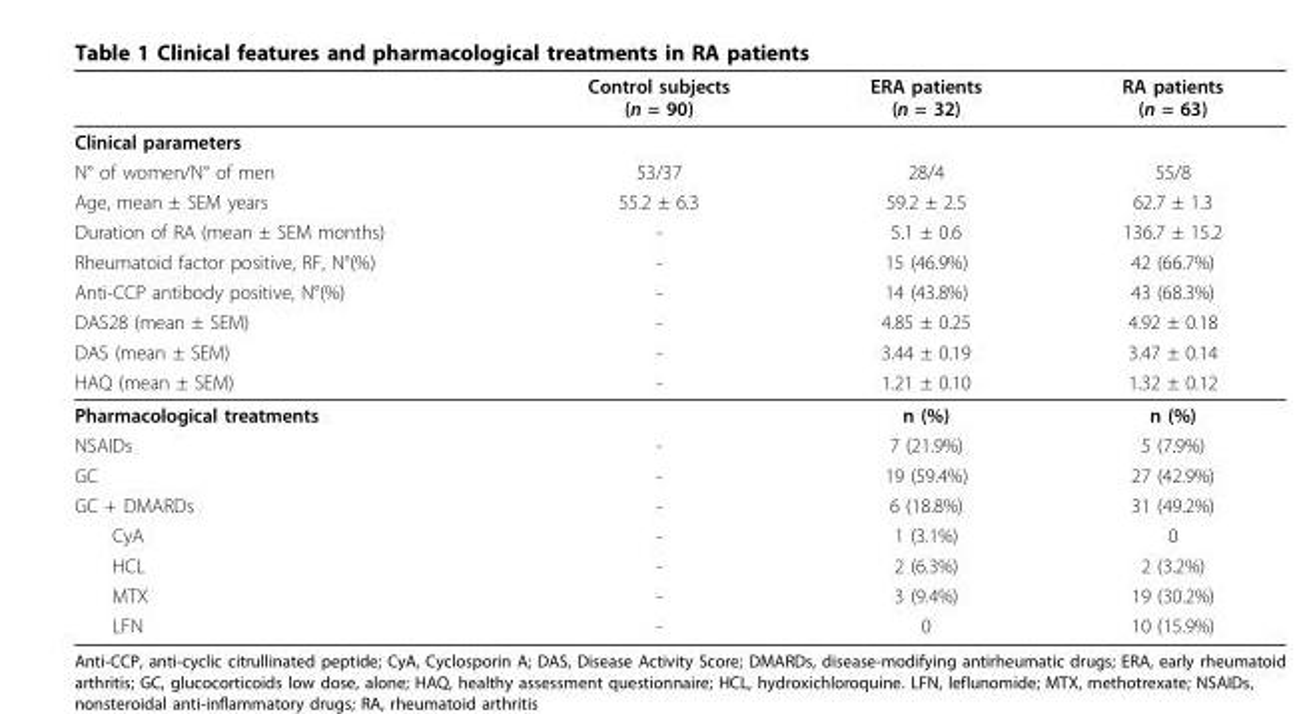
<table><thead><tr><td></td><td>Control subjects (n = 90)</td><td>ERA patients (n = 32)</td><td>RA patients (n = 63)</td></tr></thead><tbody><tr><td colspan="4">Clinical parameters</td></tr><tr><td>N° of women/N° of men</td><td>53/37</td><td>28/4</td><td>55/8</td></tr><tr><td>Age, mean ± SEM years</td><td>55.2 ± 6.3</td><td>59.2 ± 2.5</td><td>62.7 ± 1.3</td></tr><tr><td>Duration of RA (mean ± SEM months)</td><td>-</td><td>5.1 ± 0.6</td><td>136.7 ± 15.2</td></tr><tr><td>Rheumatoid factor positive, RF, N°(%)</td><td>-</td><td>15 (46.9%)</td><td>42 (66.7%)</td></tr><tr><td>Anti-CCP antibody positive, N°(%)</td><td>-</td><td>14 (43.8%)</td><td>43 (68.3%)</td></tr><tr><td>DAS28 (mean ± SEM)</td><td>-</td><td>4.85 ± 0.25</td><td>4.92 ± 0.18</td></tr><tr><td>DAS (mean ± SEM)</td><td>-</td><td>3.44 ± 0.19</td><td>3.47 ± 0.14</td></tr><tr><td>HAQ (mean ± SEM)</td><td>-</td><td>1.21 ± 0.10</td><td>1.32 ± 0.12</td></tr><tr><td>Pharmacological treatments</td><td></td><td>n (%)</td><td>n (%)</td></tr><tr><td>NSAIDs</td><td>-</td><td>7 (21.9%)</td><td>5 (7.9%)</td></tr><tr><td>GC</td><td>-</td><td>19 (59.4%)</td><td>27 (42.9%)</td></tr><tr><td>GC + DMARDs</td><td>-</td><td>6 (18.8%)</td><td>31 (49.2%)</td></tr><tr><td>CyA</td><td>-</td><td>1 (3.1%)</td><td>0</td></tr><tr><td>HCL</td><td>-</td><td>2 (6.3%)</td><td>2 (3.2%)</td></tr><tr><td>MTX</td><td>-</td><td>3 (9.4%)</td><td>19 (30.2%)</td></tr><tr><td>LFN</td><td>-</td><td>0</td><td>10 (15.9%)</td></tr></tbody></table>